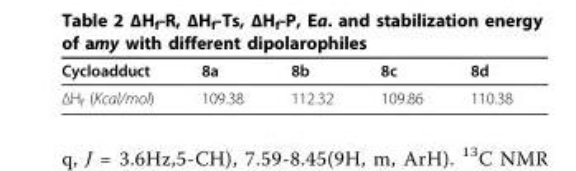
<table><thead><tr><td>Cycloadduct</td><td>8a</td><td>8b</td><td>8c</td><td>8d</td></tr></thead><tbody><tr><td>ΔH<sub>f</sub> (Kcal/mol)</td><td>109.38</td><td>112.32</td><td>109.86</td><td>110.38</td></tr></tbody></table>